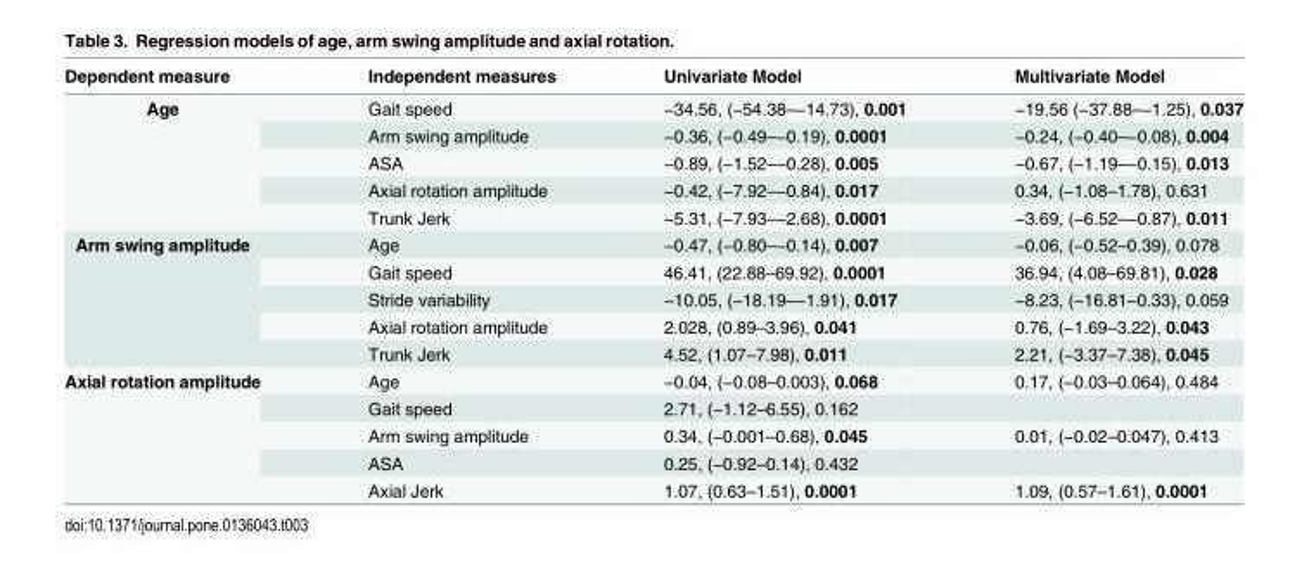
<table><thead><tr><td>Dependent measure</td><td>Independent measures</td><td>Univariate Model</td><td>Multivariate Model</td></tr></thead><tbody><tr><td rowspan="5">Age</td><td>Gait speed</td><td>−34.56, (−54.38–−14.73), 0.001</td><td>−19.56 (−37.88–−1.25), 0.037</td></tr><tr><td>Arm swing amplitude</td><td>−0.36, (−0.49–−0.19), 0.0001</td><td>−0.24, (−0.40–−0.08), 0.004</td></tr><tr><td>ASA</td><td>−0.89, (−1.52–−0.28), 0.005</td><td>−0.67, (−1.19–−0.15), 0.013</td></tr><tr><td>Axial rotation amplitude</td><td>−0.42, (−7.92–−0.84), 0.017</td><td>0.34, (−1.08–1.78), 0.631</td></tr><tr><td>Trunk Jerk</td><td>−5.31, (−7.93–−2.68), 0.0001</td><td>−3.69, (−6.52–−0.87), 0.011</td></tr><tr><td rowspan="5">Arm swing amplitude</td><td>Age</td><td>−0.47, (−0.80–−0.14), 0.007</td><td>−0.06, (−0.52–0.39), 0.078</td></tr><tr><td>Gait speed</td><td>46.41, (22.88–69.92), 0.0001</td><td>36.94, (4.08–69.81), 0.028</td></tr><tr><td>Stride variability</td><td>−10.05, (−18.19–−1.91), 0.017</td><td>−8.23, (−16.81–0.33), 0.059</td></tr><tr><td>Axial rotation amplitude</td><td>2.028, (0.89–3.96), 0.041</td><td>0.76, (−1.69–3.22), 0.043</td></tr><tr><td>Trunk Jerk</td><td>4.52, (1.07–7.98), 0.011</td><td>2.21, (−3.37–7.38), 0.045</td></tr><tr><td rowspan="5">Axial rotation amplitude</td><td>Age</td><td>−0.04, (−0.08–0.003), 0.068</td><td>0.17, (−0.03–0.064), 0.484</td></tr><tr><td>Gait speed</td><td>2.71, (−1.12–6.55), 0.162</td><td></td></tr><tr><td>Arm swing amplitude</td><td>0.34, (−0.001–0.68), 0.045</td><td>0.01, (−0.02–0.047), 0.413</td></tr><tr><td>ASA</td><td>0.25, (−0.92–0.14), 0.432</td><td></td></tr><tr><td>Axial Jerk</td><td>1.07, (0.63–1.51), 0.0001</td><td>1.09, (0.57–1.61), 0.0001</td></tr></tbody></table>